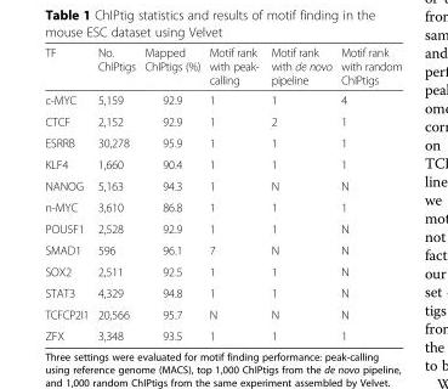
<table><thead><tr><td>TF</td><td>No. ChIPtigs</td><td>Mapped ChIPtigs (%)</td><td>Motif rank with peak- calling</td><td>Motif rank with de novo pipeline</td><td>Motif rank with random ChIPtigs</td></tr></thead><tbody><tr><td>c-MYC</td><td>5,159</td><td>92.9</td><td>1</td><td>1</td><td>4</td></tr><tr><td>CTCF</td><td>2,152</td><td>92.9</td><td>1</td><td>2</td><td>1</td></tr><tr><td>ESRRB</td><td>30,278</td><td>95.9</td><td>1</td><td>1</td><td>1</td></tr><tr><td>KLF4</td><td>1,660</td><td>90.4</td><td>1</td><td>1</td><td>1</td></tr><tr><td>NANOG</td><td>5,163</td><td>94.3</td><td>1</td><td>N</td><td>N</td></tr><tr><td>n-MYC</td><td>3,610</td><td>86.8</td><td>1</td><td>1</td><td>1</td></tr><tr><td>POU5F1</td><td>2,528</td><td>92.9</td><td>1</td><td>1</td><td>N</td></tr><tr><td>SMAD1</td><td>596</td><td>96.1</td><td>7</td><td>N</td><td>N</td></tr><tr><td>SOX2</td><td>2,511</td><td>92.5</td><td>1</td><td>1</td><td>N</td></tr><tr><td>STAT3</td><td>4,329</td><td>94.8</td><td>1</td><td>1</td><td>N</td></tr><tr><td>TCFCP2I1</td><td>20,566</td><td>95.7</td><td>N</td><td>N</td><td>N</td></tr><tr><td>ZFX</td><td>3,348</td><td>93.5</td><td>1</td><td>1</td><td>1</td></tr></tbody></table>